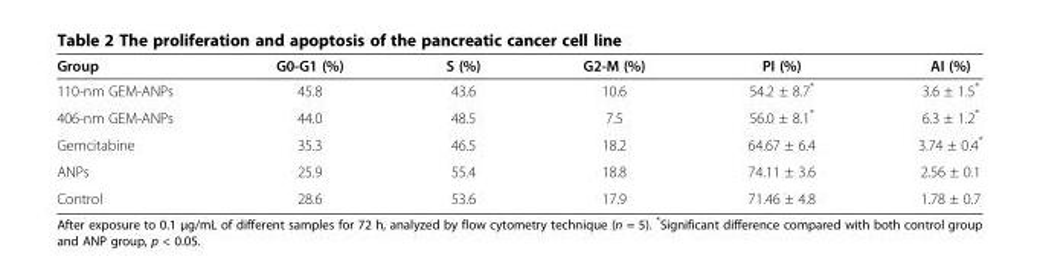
<table><thead><tr><td>Group</td><td>G0-G1 (%)</td><td>S (%)</td><td>G2-M (%)</td><td>PI (%)</td><td>AI (%)</td></tr></thead><tbody><tr><td>110-nm GEM-ANPs</td><td>45.8</td><td>43.6</td><td>10.6</td><td>54.2 ± 8.7*</td><td>3.6 ± 1.5*</td></tr><tr><td>406-nm GEM-ANPs</td><td>44.0</td><td>48.5</td><td>7.5</td><td>56.0 ± 8.1*</td><td>6.3 ± 1.2*</td></tr><tr><td>Gemcitabine</td><td>35.3</td><td>46.5</td><td>18.2</td><td>64.67 ± 6.4</td><td>3.74 ± 0.4*</td></tr><tr><td>ANPs</td><td>25.9</td><td>55.4</td><td>18.8</td><td>74.11 ± 3.6</td><td>2.56 ± 0.1</td></tr><tr><td>Control</td><td>28.6</td><td>53.6</td><td>17.9</td><td>71.46 ± 4.8</td><td>1.78 ± 0.7</td></tr></tbody></table>